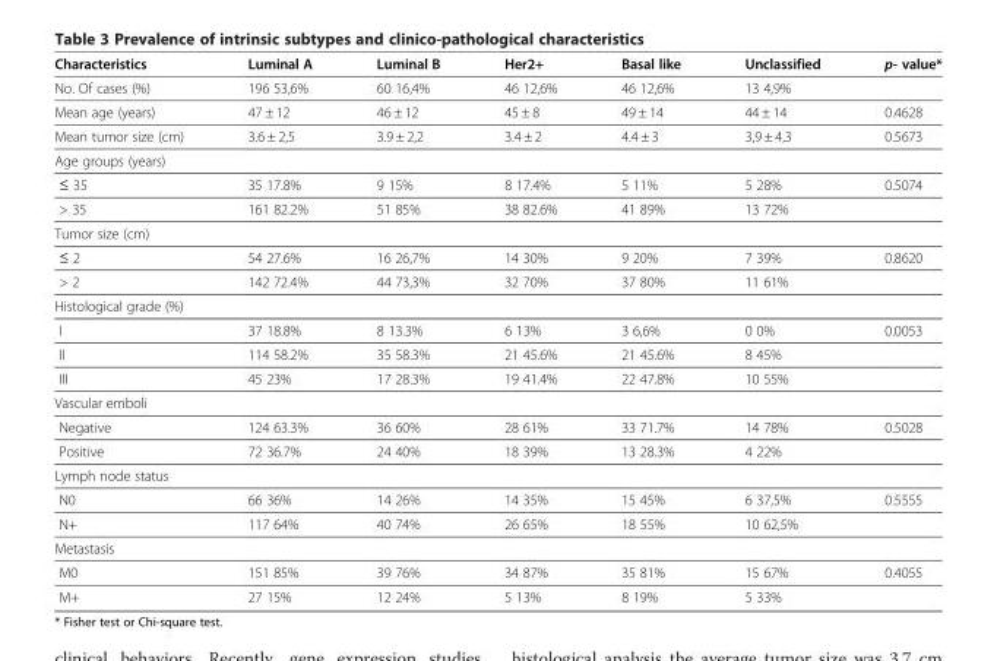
<table><thead><tr><td>Characteristics</td><td>Luminal A</td><td>Luminal B</td><td>Her2+</td><td>Basal like</td><td>Unclassified</td><td>p- value*</td></tr></thead><tbody><tr><td>No. Of cases (%)</td><td>196 53,6%</td><td>60 16,4%</td><td>46 12,6%</td><td>46 12,6%</td><td>13 4,9%</td><td></td></tr><tr><td>Mean age (years)</td><td>47 ± 12</td><td>46 ± 12</td><td>45 ± 8</td><td>49 ± 14</td><td>44 ± 14</td><td>0.4628</td></tr><tr><td>Mean tumor size (cm)</td><td>3.6 ± 2,5</td><td>3.9 ± 2,2</td><td>3.4 ± 2</td><td>4.4 ± 3</td><td>3,9 ± 4,3</td><td>0.5673</td></tr><tr><td colspan="7">Age groups (years)</td></tr><tr><td>≤ 35</td><td>35 17.8%</td><td>9 15%</td><td>8 17.4%</td><td>5 11%</td><td>5 28%</td><td>0.5074</td></tr><tr><td>&gt; 35</td><td>161 82.2%</td><td>51 85%</td><td>38 82.6%</td><td>41 89%</td><td>13 72%</td><td></td></tr><tr><td colspan="7">Tumor size (cm)</td></tr><tr><td>≤ 2</td><td>54 27.6%</td><td>16 26,7%</td><td>14 30%</td><td>9 20%</td><td>7 39%</td><td>0.8620</td></tr><tr><td>&gt; 2</td><td>142 72.4%</td><td>44 73,3%</td><td>32 70%</td><td>37 80%</td><td>11 61%</td><td></td></tr><tr><td colspan="7">Histological grade (%)</td></tr><tr><td>I</td><td>37 18.8%</td><td>8 13.3%</td><td>6 13%</td><td>3 6,6%</td><td>0 0%</td><td>0.0053</td></tr><tr><td>II</td><td>114 58.2%</td><td>35 58.3%</td><td>21 45.6%</td><td>21 45.6%</td><td>8 45%</td><td></td></tr><tr><td>III</td><td>45 23%</td><td>17 28.3%</td><td>19 41.4%</td><td>22 47.8%</td><td>10 55%</td><td></td></tr><tr><td colspan="7">Vascular emboli</td></tr><tr><td>Negative</td><td>124 63.3%</td><td>36 60%</td><td>28 61%</td><td>33 71.7%</td><td>14 78%</td><td>0.5028</td></tr><tr><td>Positive</td><td>72 36.7%</td><td>24 40%</td><td>18 39%</td><td>13 28.3%</td><td>4 22%</td><td></td></tr><tr><td colspan="7">Lymph node status</td></tr><tr><td>N0</td><td>66 36%</td><td>14 26%</td><td>14 35%</td><td>15 45%</td><td>6 37,5%</td><td>0.5555</td></tr><tr><td>N+</td><td>117 64%</td><td>40 74%</td><td>26 65%</td><td>18 55%</td><td>10 62,5%</td><td></td></tr><tr><td colspan="7">Metastasis</td></tr><tr><td>M0</td><td>151 85%</td><td>39 76%</td><td>34 87%</td><td>35 81%</td><td>15 67%</td><td>0.4055</td></tr><tr><td>M+</td><td>27 15%</td><td>12 24%</td><td>5 13%</td><td>8 19%</td><td>5 33%</td><td></td></tr></tbody></table>